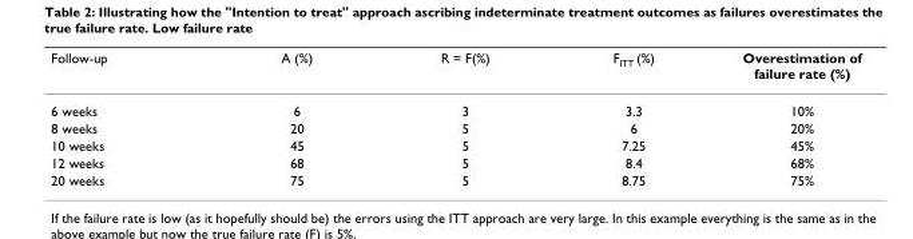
<table><thead><tr><td>Follow-up</td><td>A (%)</td><td>R = F(%)</td><td>F<sub>ITT</sub> (%)</td><td>Overestimation of failure rate (%)</td></tr></thead><tbody><tr><td>6 weeks</td><td>6</td><td>3</td><td>3.3</td><td>10%</td></tr><tr><td>8 weeks</td><td>20</td><td>5</td><td>6</td><td>20%</td></tr><tr><td>10 weeks</td><td>45</td><td>5</td><td>7.25</td><td>45%</td></tr><tr><td>12 weeks</td><td>68</td><td>5</td><td>8.4</td><td>68%</td></tr><tr><td>20 weeks</td><td>75</td><td>5</td><td>8.75</td><td>75%</td></tr></tbody></table>